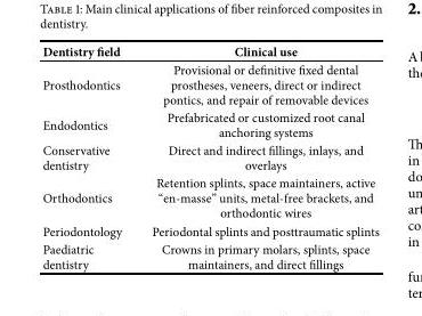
<table><thead><tr><td>Dentistry field</td><td>Clinical use</td></tr></thead><tbody><tr><td>Prosthodontics</td><td>Provisional or definitive fixed dental prostheses, veneers, direct or indirect pontics, and repair of removable devices</td></tr><tr><td>Endodontics</td><td>Prefabricated or customized root canal anchoring systems</td></tr><tr><td>Conservative dentistry</td><td>Direct and indirect fillings, inlays, and overlays</td></tr><tr><td>Orthodontics</td><td>Retention splints, space maintainers, active “en-masse” units, metal-free brackets, and orthodontic wires</td></tr><tr><td>Periodontology</td><td>Periodontal splints and posttraumatic splints</td></tr><tr><td>Paediatric dentistry</td><td>Crowns in primary molars, splints, space maintainers, and direct fillings</td></tr></tbody></table>